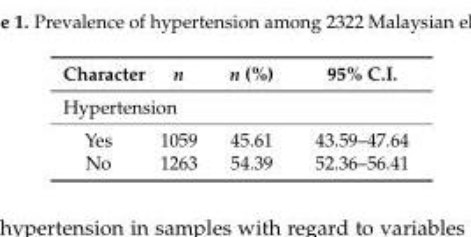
<table><thead><tr><td>Character</td><td>n</td><td>n (%)</td><td>95% C.I.</td></tr></thead><tbody><tr><td colspan="4">Hypertension</td></tr><tr><td>Yes</td><td>1059</td><td>45.61</td><td>43.59–47.64</td></tr><tr><td>No</td><td>1263</td><td>54.39</td><td>52.36–56.41</td></tr></tbody></table>